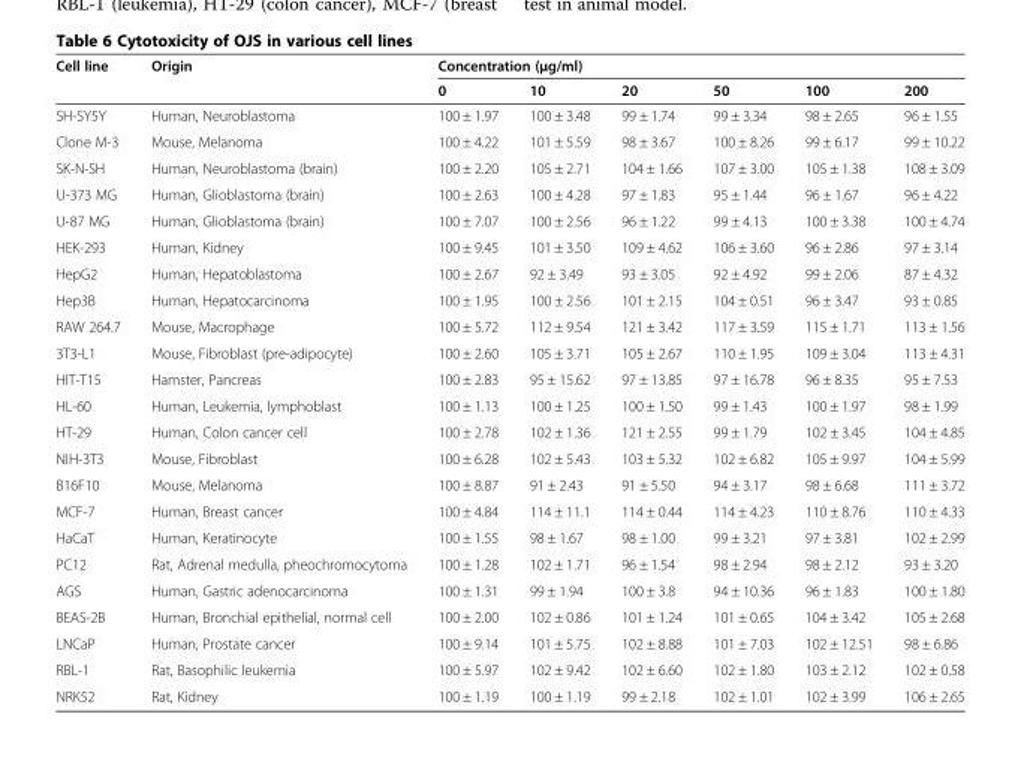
<table><thead><tr><td rowspan="2">Cell line</td><td rowspan="2">Origin</td><td colspan="6">Concentration (μg/ml)</td></tr><tr><td>0</td><td>10</td><td>20</td><td>50</td><td>100</td><td>200</td></tr></thead><tbody><tr><td>SH-SY5Y</td><td>Human, Neuroblastoma</td><td>100 ± 1.97</td><td>100 ± 3.48</td><td>99 ± 1.74</td><td>99 ± 3.34</td><td>98 ± 2.65</td><td>96 ± 1.55</td></tr><tr><td>Clone M-3</td><td>Mouse, Melanoma</td><td>100 ± 4.22</td><td>101 ± 5.59</td><td>98 ± 3.67</td><td>100 ± 8.26</td><td>99 ± 6.17</td><td>99 ± 10.22</td></tr><tr><td>SK-N-SH</td><td>Human, Neuroblastoma (brain)</td><td>100 ± 2.20</td><td>105 ± 2.71</td><td>104 ± 1.66</td><td>107 ± 3.00</td><td>105 ± 1.38</td><td>108 ± 3.09</td></tr><tr><td>U-373 MG</td><td>Human, Glioblastoma (brain)</td><td>100 ± 2.63</td><td>100 ± 4.28</td><td>97 ± 1.83</td><td>95 ± 1.44</td><td>96 ± 1.67</td><td>96 ± 4.22</td></tr><tr><td>U-87 MG</td><td>Human, Glioblastoma (brain)</td><td>100 ± 7.07</td><td>100 ± 2.56</td><td>96 ± 1.22</td><td>99 ± 4.13</td><td>100 ± 3.38</td><td>100 ± 4.74</td></tr><tr><td>HEK-293</td><td>Human, Kidney</td><td>100 ± 9.45</td><td>101 ± 3.50</td><td>109 ± 4.62</td><td>106 ± 3.60</td><td>96 ± 2.86</td><td>97 ± 3.14</td></tr><tr><td>HepG2</td><td>Human, Hepatoblastoma</td><td>100 ± 2.67</td><td>92 ± 3.49</td><td>93 ± 3.05</td><td>92 ± 4.92</td><td>99 ± 2.06</td><td>87 ± 4.32</td></tr><tr><td>Hep3B</td><td>Human, Hepatocarcinoma</td><td>100 ± 1.95</td><td>100 ± 2.56</td><td>101 ± 2.15</td><td>104 ± 0.51</td><td>96 ± 3.47</td><td>93 ± 0.85</td></tr><tr><td>RAW 264.7</td><td>Mouse, Macrophage</td><td>100 ± 5.72</td><td>112 ± 9.54</td><td>121 ± 3.42</td><td>117 ± 3.59</td><td>115 ± 1.71</td><td>113 ± 1.56</td></tr><tr><td>3T3-L1</td><td>Mouse, Fibroblast (pre-adipocyte)</td><td>100 ± 2.60</td><td>105 ± 3.71</td><td>105 ± 2.67</td><td>110 ± 1.95</td><td>109 ± 3.04</td><td>113 ± 4.31</td></tr><tr><td>HIT-T15</td><td>Hamster, Pancreas</td><td>100 ± 2.83</td><td>95 ± 15.62</td><td>97 ± 13.85</td><td>97 ± 16.78</td><td>96 ± 8.35</td><td>95 ± 7.53</td></tr><tr><td>HL-60</td><td>Human, Leukemia, lymphoblast</td><td>100 ± 1.13</td><td>100 ± 1.25</td><td>100 ± 1.50</td><td>99 ± 1.43</td><td>100 ± 1.97</td><td>98 ± 1.99</td></tr><tr><td>HT-29</td><td>Human, Colon cancer cell</td><td>100 ± 2.78</td><td>102 ± 1.36</td><td>121 ± 2.55</td><td>99 ± 1.79</td><td>102 ± 3.45</td><td>104 ± 4.85</td></tr><tr><td>NIH-3T3</td><td>Mouse, Fibroblast</td><td>100 ± 6.28</td><td>102 ± 5.43</td><td>103 ± 5.32</td><td>102 ± 6.82</td><td>105 ± 9.97</td><td>104 ± 5.99</td></tr><tr><td>B16F10</td><td>Mouse, Melanoma</td><td>100 ± 8.87</td><td>91 ± 2.43</td><td>91 ± 5.50</td><td>94 ± 3.17</td><td>98 ± 6.68</td><td>111 ± 3.72</td></tr><tr><td>MCF-7</td><td>Human, Breast cancer</td><td>100 ± 4.84</td><td>114 ± 11.1</td><td>114 ± 0.44</td><td>114 ± 4.23</td><td>110 ± 8.76</td><td>110 ± 4.33</td></tr><tr><td>HaCaT</td><td>Human, Keratinocyte</td><td>100 ± 1.55</td><td>98 ± 1.67</td><td>98 ± 1.00</td><td>99 ± 3.21</td><td>97 ± 3.81</td><td>102 ± 2.99</td></tr><tr><td>PC12</td><td>Rat, Adrenal medulla, pheochromocytoma</td><td>100 ± 1.28</td><td>102 ± 1.71</td><td>96 ± 1.54</td><td>98 ± 2.94</td><td>98 ± 2.12</td><td>93 ± 3.20</td></tr><tr><td>AGS</td><td>Human, Gastric adenocarcinoma</td><td>100 ± 1.31</td><td>99 ± 1.94</td><td>100 ± 3.8</td><td>94 ± 10.36</td><td>96 ± 1.83</td><td>100 ± 1.80</td></tr><tr><td>BEAS-2B</td><td>Human, Bronchial epithelial, normal cell</td><td>100 ± 2.00</td><td>102 ± 0.86</td><td>101 ± 1.24</td><td>101 ± 0.65</td><td>104 ± 3.42</td><td>105 ± 2.68</td></tr><tr><td>LNCaP</td><td>Human, Prostate cancer</td><td>100 ± 9.14</td><td>101 ± 5.75</td><td>102 ± 8.88</td><td>101 ± 7.03</td><td>102 ± 12.51</td><td>98 ± 6.86</td></tr><tr><td>RBL-1</td><td>Rat, Basophilic leukemia</td><td>100 ± 5.97</td><td>102 ± 9.42</td><td>102 ± 6.60</td><td>102 ± 1.80</td><td>103 ± 2.12</td><td>102 ± 0.58</td></tr><tr><td>NRK52</td><td>Rat, Kidney</td><td>100 ± 1.19</td><td>100 ± 1.19</td><td>99 ± 2.18</td><td>102 ± 1.01</td><td>102 ± 3.99</td><td>106 ± 2.65</td></tr></tbody></table>